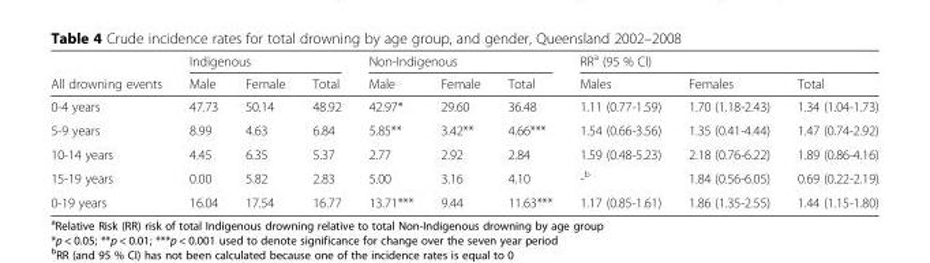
<table><thead><tr><td rowspan="2">All drowning events</td><td colspan="3">Indigenous</td><td colspan="3">Non-Indigenous</td><td colspan="3">RR<sup>a</sup> (95 % CI)</td></tr><tr><td>Male</td><td>Female</td><td>Total</td><td>Male</td><td>Female</td><td>Total</td><td>Males</td><td>Females</td><td>Total</td></tr></thead><tbody><tr><td>0-4 years</td><td>47.73</td><td>50.14</td><td>48.92</td><td>42.97*</td><td>29.60</td><td>36.48</td><td>1.11 (0.77-1.59)</td><td>1.70 (1.18-2.43)</td><td>1.34 (1.04-1.73)</td></tr><tr><td>5-9 years</td><td>8.99</td><td>4.63</td><td>6.84</td><td>5.85**</td><td>3.42**</td><td>4.66***</td><td>1.54 (0.66-3.56)</td><td>1.35 (0.41-4.44)</td><td>1.47 (0.74-2.92)</td></tr><tr><td>10-14 years</td><td>4.45</td><td>6.35</td><td>5.37</td><td>2.77</td><td>2.92</td><td>2.84</td><td>1.59 (0.48-5.23)</td><td>2.18 (0.76-6.22)</td><td>1.89 (0.86-4.16)</td></tr><tr><td>15-19 years</td><td>0.00</td><td>5.82</td><td>2.83</td><td>5.00</td><td>3.16</td><td>4.10</td><td>-<sup>b</sup></td><td>1.84 (0.56-6.05)</td><td>0.69 (0.22-2.19)</td></tr><tr><td>0-19 years</td><td>16.04</td><td>17.54</td><td>16.77</td><td>13.71***</td><td>9.44</td><td>11.63***</td><td>1.17 (0.85-1.61)</td><td>1.86 (1.35-2.55)</td><td>1.44 (1.15-1.80)</td></tr></tbody></table>